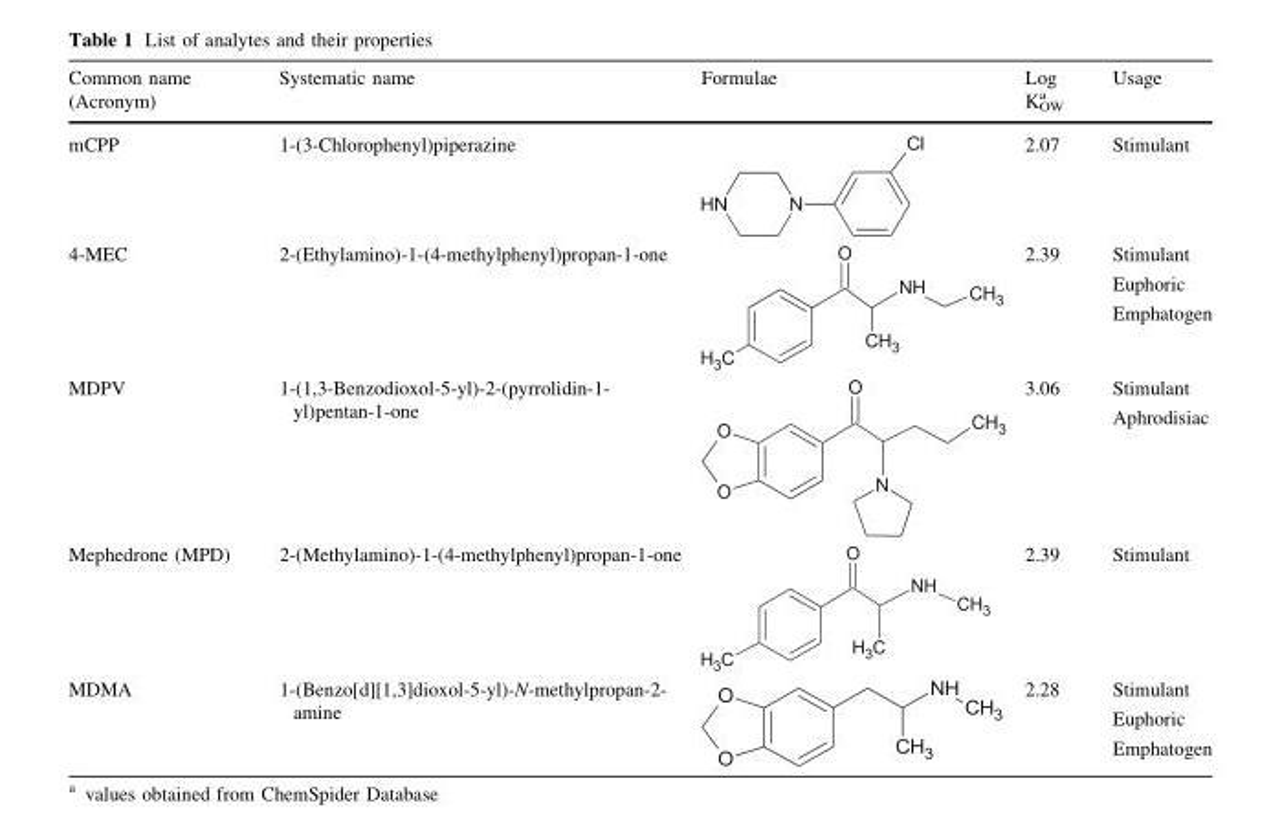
<table><thead><tr><td>Common name (Acronym)</td><td>Systematic name</td><td>Formulae</td><td>Log K<sub>OW</sub> <sup>a</sup></td><td>Usage</td></tr></thead><tbody><tr><td>mCPP</td><td>1-(3-Chlorophenyl)piperazine</td><td></td><td>2.07</td><td>Stimulant</td></tr><tr><td>4-MEC</td><td>2-(Ethylamino)-1-(4-methylphenyl)propan-1-one</td><td></td><td>2.39</td><td>Stimulant Euphoric Emphatogen</td></tr><tr><td>MDPV</td><td>1-(1,3-Benzodioxol-5-yl)-2-(pyrrolidin-1- yl)pentan-1-one</td><td></td><td>3.06</td><td>Stimulant Aphrodisiac</td></tr><tr><td>Mephedrone (MPD)</td><td>2-(Methylamino)-1-(4-methylphenyl)propan-1-one</td><td></td><td>2.39</td><td>Stimulant</td></tr><tr><td>MDMA</td><td>1-(Benzo[d][1,3]dioxol-5-yl)-N-methylpropan-2- amine</td><td></td><td>2.28</td><td>Stimulant Euphoric Emphatogen</td></tr></tbody></table>